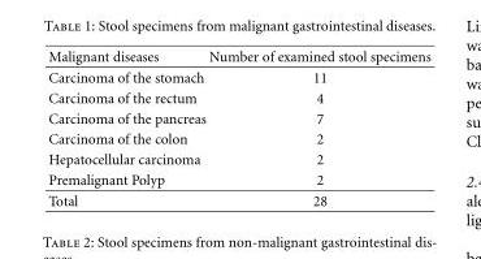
<table><thead><tr><td>Malignant diseases</td><td>Number of examined stool specimens</td></tr></thead><tbody><tr><td>Carcinoma of the stomach</td><td>11</td></tr><tr><td>Carcinoma of the rectum</td><td>4</td></tr><tr><td>Carcinoma of the pancreas</td><td>7</td></tr><tr><td>Carcinoma of the colon</td><td>2</td></tr><tr><td>Hepatocellular carcinoma</td><td>2</td></tr><tr><td>Premalignant Polyp</td><td>2</td></tr><tr><td>Total</td><td>28</td></tr></tbody></table>